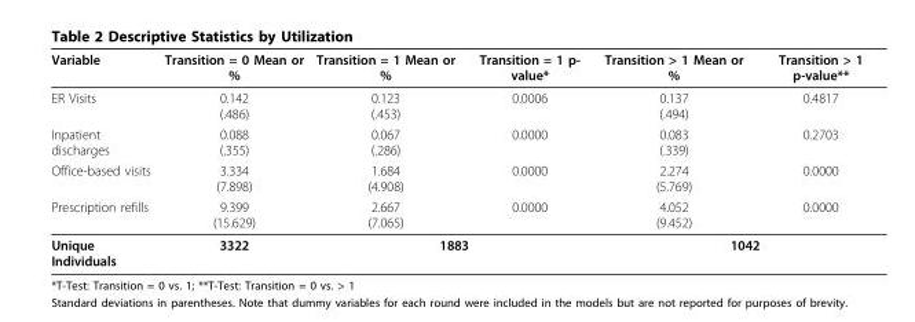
<table><thead><tr><td>Variable</td><td>Transition = 0 Mean or %</td><td>Transition = 1 Mean or %</td><td>Transition = 1 p- value*</td><td>Transition &gt; 1 Mean or %</td><td>Transition &gt; 1 p-value**</td></tr></thead><tbody><tr><td>ER Visits</td><td>0.142 (.486)</td><td>0.123 (.453)</td><td>0.0006</td><td>0.137 (.494)</td><td>0.4817</td></tr><tr><td>Inpatient discharges</td><td>0.088 (.355)</td><td>0.067 (.286)</td><td>0.0000</td><td>0.083 (.339)</td><td>0.2703</td></tr><tr><td>Office-based visits</td><td>3.334 (7.898)</td><td>1.684 (4.908)</td><td>0.0000</td><td>2.274 (5.769)</td><td>0.0000</td></tr><tr><td>Prescription refills</td><td>9.399 (15.629)</td><td>2.667 (7.065)</td><td>0.0000</td><td>4.052 (9.452)</td><td>0.0000</td></tr><tr><td>Unique Individuals</td><td>3322</td><td colspan="2">1883</td><td colspan="2">1042</td></tr></tbody></table>